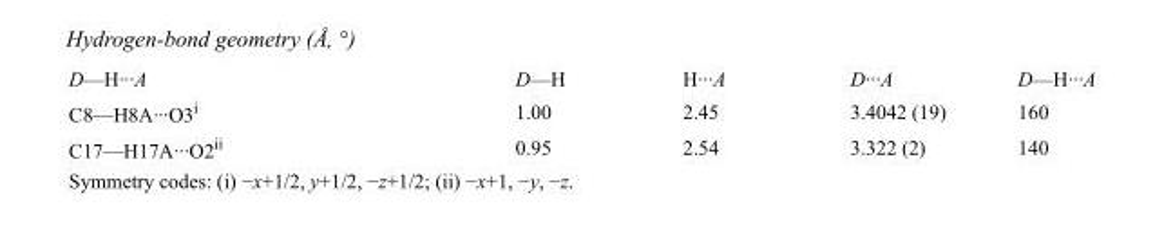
<table><tbody><tr><td>D—H···A</td><td>D—H</td><td>H···A</td><td>D···A</td><td>D—H···A</td></tr><tr><td>C8—H8A···O3<sup>i</sup></td><td>1.00</td><td>2.45</td><td>3.4042 (19)</td><td>160</td></tr><tr><td>C17—H17A···O2<sup>ii</sup></td><td>0.95</td><td>2.54</td><td>3.322 (2)</td><td>140</td></tr></tbody></table>